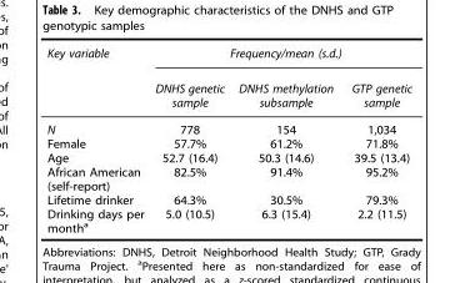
<table><thead><tr><td rowspan="2">Key variable</td><td colspan="3">Frequency/mean (s.d.)</td></tr><tr><td>DNHS genetic sample</td><td>DNHS methylation subsample</td><td>GTP genetic sample</td></tr></thead><tbody><tr><td>N</td><td>778</td><td>154</td><td>1,034</td></tr><tr><td>Female</td><td>57.7%</td><td>61.2%</td><td>71.8%</td></tr><tr><td>Age</td><td>52.7 (16.4)</td><td>50.3 (14.6)</td><td>39.5 (13.4)</td></tr><tr><td>African American (self-report)</td><td>82.5%</td><td>91.4%</td><td>95.2%</td></tr><tr><td>Lifetime drinker</td><td>64.3%</td><td>30.5%</td><td>79.3%</td></tr><tr><td>Drinking days per month<sup>a</sup></td><td>5.0 (10.5)</td><td>6.3 (15.4)</td><td>2.2 (11.5)</td></tr></tbody></table>